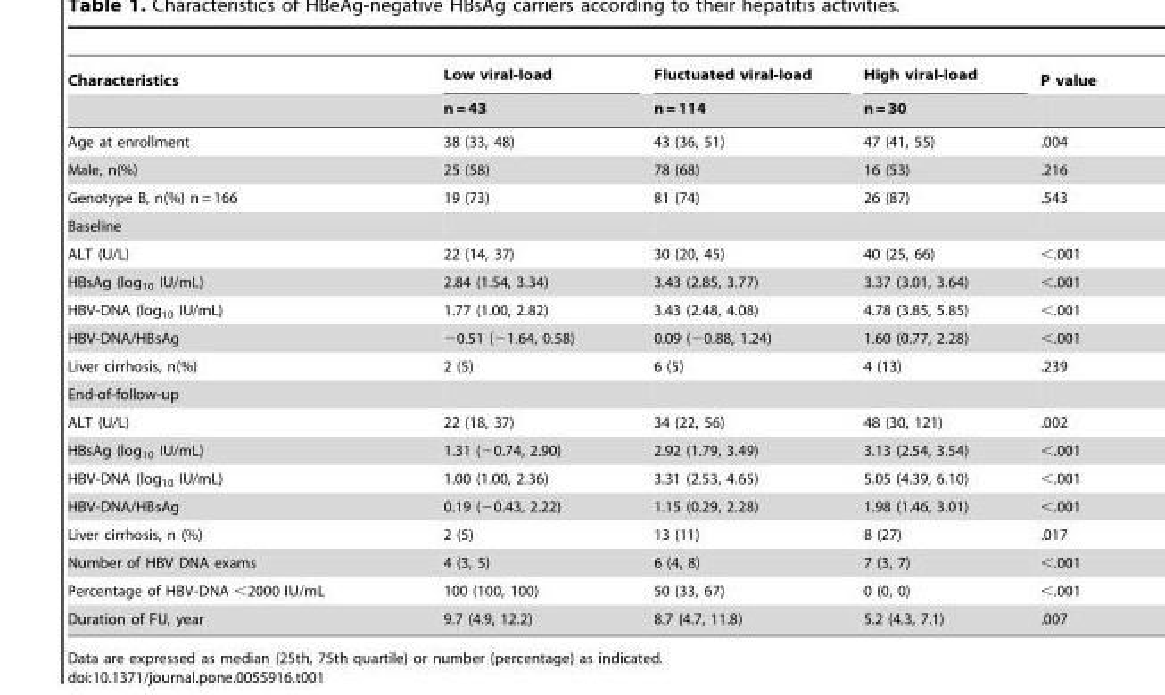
<table><thead><tr><td rowspan="2">Characteristics</td><td rowspan="2">Low viral-load n = 43</td><td rowspan="2">Fluctuated viral-load n = 114</td><td rowspan="2">High viral-load n = 30</td><td rowspan="2">P value</td></tr><tr></tr></thead><tbody><tr><td>Age at enrollment</td><td>38 (33, 48)</td><td>43 (36, 51)</td><td>47 (41, 55)</td><td>.004</td></tr><tr><td>Male, n(%)</td><td>25 (58)</td><td>78 (68)</td><td>16 (53)</td><td>.216</td></tr><tr><td>Genotype B, n(%) n = 166</td><td>19 (73)</td><td>81 (74)</td><td>26 (87)</td><td>.543</td></tr><tr><td colspan="5">Baseline</td></tr><tr><td>ALT (U/L)</td><td>22 (14, 37)</td><td>30 (20, 45)</td><td>40 (25, 66)</td><td>&lt;.001</td></tr><tr><td>HBsAg (log<sub>10</sub> IU/mL)</td><td>2.84 (1.54, 3.34)</td><td>3.43 (2.85, 3.77)</td><td>3.37 (3.01, 3.64)</td><td>&lt;.001</td></tr><tr><td>HBV-DNA (log<sub>10</sub> IU/mL)</td><td>1.77 (1.00, 2.82)</td><td>3.43 (2.48, 4.08)</td><td>4.78 (3.85, 5.85)</td><td>&lt;.001</td></tr><tr><td>HBV-DNA/HBsAg</td><td>−0.51 (−1.64, 0.58)</td><td>0.09 (−0.88, 1.24)</td><td>1.60 (0.77, 2.28)</td><td>&lt;.001</td></tr><tr><td>Liver cirrhosis, n(%)</td><td>2 (5)</td><td>6 (5)</td><td>4 (13)</td><td>.239</td></tr><tr><td colspan="5">End-of-follow-up</td></tr><tr><td>ALT (U/L)</td><td>22 (18, 37)</td><td>34 (22, 56)</td><td>48 (30, 121)</td><td>.002</td></tr><tr><td>HBsAg (log<sub>10</sub> IU/mL)</td><td>1.31 (−0.74, 2.90)</td><td>2.92 (1.79, 3.49)</td><td>3.13 (2.54, 3.54)</td><td>&lt;.001</td></tr><tr><td>HBV-DNA (log<sub>10</sub> IU/mL)</td><td>1.00 (1.00, 2.36)</td><td>3.31 (2.53, 4.65)</td><td>5.05 (4.39, 6.10)</td><td>&lt;.001</td></tr><tr><td>HBV-DNA/HBsAg</td><td>0.19 (−0.43, 2.22)</td><td>1.15 (0.29, 2.28)</td><td>1.98 (1.46, 3.01)</td><td>&lt;.001</td></tr><tr><td>Liver cirrhosis, n (%)</td><td>2 (5)</td><td>13 (11)</td><td>8 (27)</td><td>.017</td></tr><tr><td>Number of HBV DNA exams</td><td>4 (3, 5)</td><td>6 (4, 8)</td><td>7 (3, 7)</td><td>&lt;.001</td></tr><tr><td>Percentage of HBV-DNA &lt;2000 IU/mL</td><td>100 (100, 100)</td><td>50 (33, 67)</td><td>0 (0, 0)</td><td>&lt;.001</td></tr><tr><td>Duration of FU, year</td><td>9.7 (4.9, 12.2)</td><td>8.7 (4.7, 11.8)</td><td>5.2 (4.3, 7.1)</td><td>.007</td></tr></tbody></table>